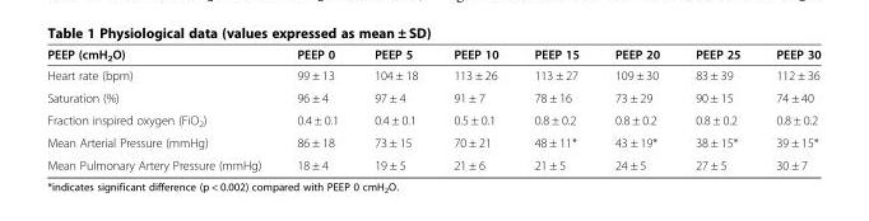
<table><thead><tr><td>PEEP (cmH<sub>2</sub>O)</td><td>PEEP 0</td><td>PEEP 5</td><td>PEEP 10</td><td>PEEP 15</td><td>PEEP 20</td><td>PEEP 25</td><td>PEEP 30</td></tr></thead><tbody><tr><td>Heart rate (bpm)</td><td>99 ± 13</td><td>104 ± 18</td><td>113 ± 26</td><td>113 ± 27</td><td>109 ± 30</td><td>83 ± 39</td><td>112 ± 36</td></tr><tr><td>Saturation (%)</td><td>96 ± 4</td><td>97 ± 4</td><td>91 ± 7</td><td>78 ± 16</td><td>73 ± 29</td><td>90 ± 15</td><td>74 ± 40</td></tr><tr><td>Fraction inspired oxygen (FiO<sub>2</sub>)</td><td>0.4 ± 0.1</td><td>0.4 ± 0.1</td><td>0.5 ± 0.1</td><td>0.8 ± 0.2</td><td>0.8 ± 0.2</td><td>0.8 ± 0.2</td><td>0.8 ± 0.2</td></tr><tr><td>Mean Arterial Pressure (mmHg)</td><td>86 ± 18</td><td>73 ± 15</td><td>70 ± 21</td><td>48 ± 11*</td><td>43 ± 19*</td><td>38 ± 15*</td><td>39 ± 15*</td></tr><tr><td>Mean Pulmonary Artery Pressure (mmHg)</td><td>18 ± 4</td><td>19 ± 5</td><td>21 ± 6</td><td>21 ± 5</td><td>24 ± 5</td><td>27 ± 5</td><td>30 ± 7</td></tr></tbody></table>